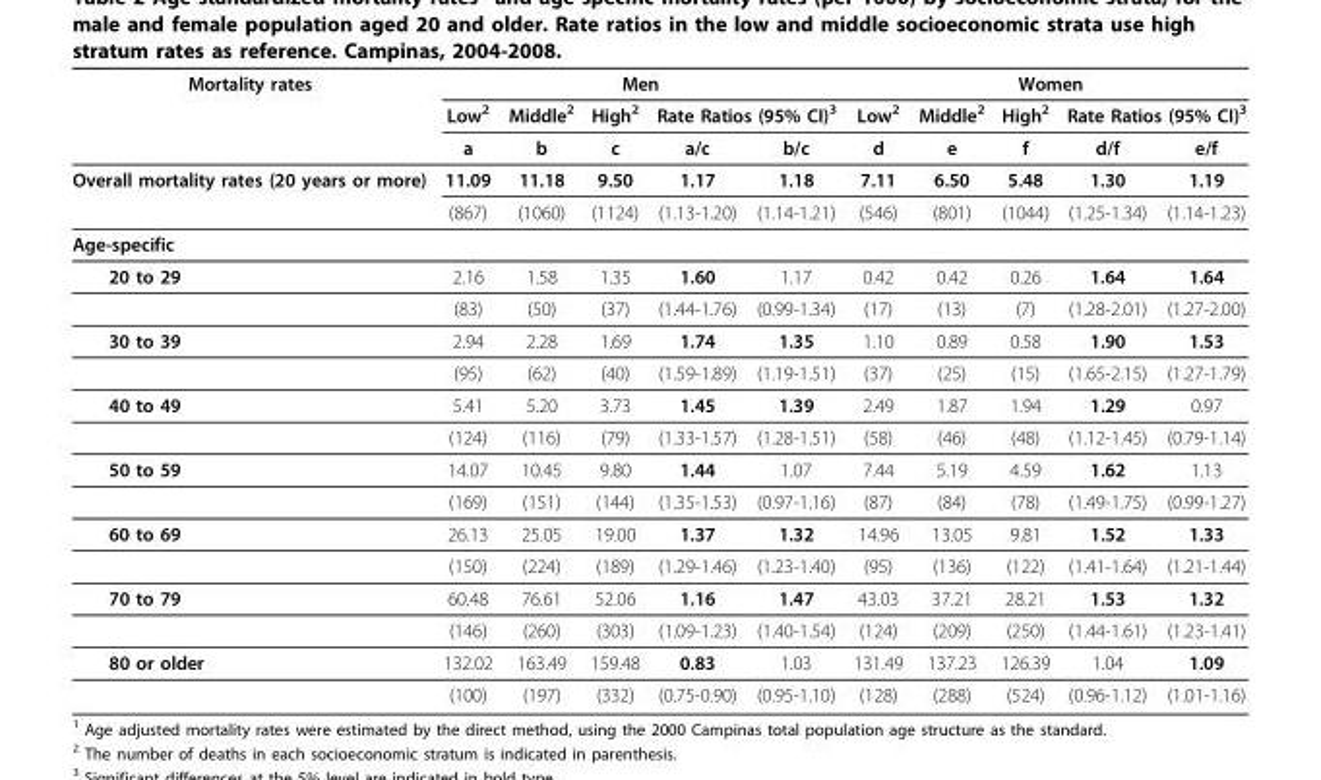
<table><thead><tr><td rowspan="3">Mortality rates</td><td colspan="5">Men</td><td colspan="5">Women</td></tr><tr><td rowspan="2">Low<sup>2</sup> a</td><td rowspan="2">Middle<sup>2</sup> b</td><td rowspan="2">High<sup>2</sup> c</td><td colspan="2">Rate Ratios (95% CI)<sup>3</sup></td><td rowspan="2">Low<sup>2</sup> d</td><td rowspan="2">Middle<sup>2</sup> e</td><td rowspan="2">High<sup>2</sup> f</td><td colspan="2">Rate Ratios (95% CI)<sup>3</sup></td></tr><tr><td>a/c</td><td>b/c</td><td>d/f</td><td>e/f</td></tr></thead><tbody><tr><td rowspan="2">Overall mortality rates (20 years or more)</td><td>11.09</td><td>11.18</td><td>9.50</td><td>1.17</td><td>1.18</td><td>7.11</td><td>6.50</td><td>5.48</td><td>1.30</td><td>1.19</td></tr><tr><td>(867)</td><td>(1060)</td><td>(1124)</td><td>(1.13-1.20)</td><td>(1.14-1.21)</td><td>(546)</td><td>(801)</td><td>(1044)</td><td>(1.25-1.34)</td><td>(1.14-1.23)</td></tr><tr><td colspan="11">Age-specific</td></tr><tr><td rowspan="2">20 to 29</td><td>2.16</td><td>1.58</td><td>1.35</td><td>1.60</td><td>1.17</td><td>0.42</td><td>0.42</td><td>0.26</td><td>1.64</td><td>1.64</td></tr><tr><td>(83)</td><td>(50)</td><td>(37)</td><td>(1.44-1.76)</td><td>(0.99-1.34)</td><td>(17)</td><td>(13)</td><td>(7)</td><td>(1.28-2.01)</td><td>(1.27-2.00)</td></tr><tr><td rowspan="2">30 to 39</td><td>2.94</td><td>2.28</td><td>1.69</td><td>1.74</td><td>1.35</td><td>1.10</td><td>0.89</td><td>0.58</td><td>1.90</td><td>1.53</td></tr><tr><td>(95)</td><td>(62)</td><td>(40)</td><td>(1.59-1.89)</td><td>(1.19-1.51)</td><td>(37)</td><td>(25)</td><td>(15)</td><td>(1.65-2.15)</td><td>(1.27-1.79)</td></tr><tr><td rowspan="2">40 to 49</td><td>5.41</td><td>5.20</td><td>3.73</td><td>1.45</td><td>1.39</td><td>2.49</td><td>1.87</td><td>1.94</td><td>1.29</td><td>0.97</td></tr><tr><td>(124)</td><td>(116)</td><td>(79)</td><td>(1.33-1.57)</td><td>(1.28-1.51)</td><td>(58)</td><td>(46)</td><td>(48)</td><td>(1.12-1.45)</td><td>(0.79-1.14)</td></tr><tr><td rowspan="2">50 to 59</td><td>14.07</td><td>10.45</td><td>9.80</td><td>1.44</td><td>1.07</td><td>7.44</td><td>5.19</td><td>4.59</td><td>1.62</td><td>1.13</td></tr><tr><td>(169)</td><td>(151)</td><td>(144)</td><td>(1.35-1.53)</td><td>(0.97-1.16)</td><td>(87)</td><td>(84)</td><td>(78)</td><td>(1.49-1.75)</td><td>(0.99-1.27)</td></tr><tr><td rowspan="2">60 to 69</td><td>26.13</td><td>25.05</td><td>19.00</td><td>1.37</td><td>1.32</td><td>14.96</td><td>13.05</td><td>9.81</td><td>1.52</td><td>1.33</td></tr><tr><td>(150)</td><td>(224)</td><td>(189)</td><td>(1.29-1.46)</td><td>(1.23-1.40)</td><td>(95)</td><td>(136)</td><td>(122)</td><td>(1.41-1.64)</td><td>(1.21-1.44)</td></tr><tr><td rowspan="2">70 to 79</td><td>60.48</td><td>76.61</td><td>52.06</td><td>1.16</td><td>1.47</td><td>43.03</td><td>37.21</td><td>28.21</td><td>1.53</td><td>1.32</td></tr><tr><td>(146)</td><td>(260)</td><td>(303)</td><td>(1.09-1.23)</td><td>(1.40-1.54)</td><td>(124)</td><td>(209)</td><td>(250)</td><td>(1.44-1.61)</td><td>(1.23-1.41)</td></tr><tr><td rowspan="2">80 or older</td><td>132.02</td><td>163.49</td><td>159.48</td><td>0.83</td><td>1.03</td><td>131.49</td><td>137.23</td><td>126.39</td><td>1.04</td><td>1.09</td></tr><tr><td>(100)</td><td>(197)</td><td>(332)</td><td>(0.75-0.90)</td><td>(0.95-1.10)</td><td>(128)</td><td>(288)</td><td>(524)</td><td>(0.96-1.12)</td><td>(1.01-1.16)</td></tr></tbody></table>